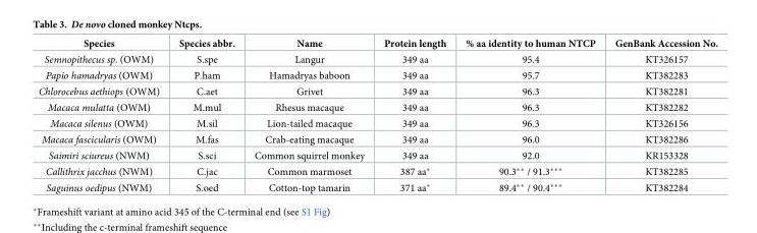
<table><thead><tr><td>Species</td><td>Species abbr.</td><td>Name</td><td>Protein length</td><td>% aa identity to human NTCP</td><td>GenBank Accession No.</td></tr></thead><tbody><tr><td>Semnopithecus sp. (OWM)</td><td>S.spe</td><td>Langur</td><td>349 aa</td><td>95.4</td><td>KT326157</td></tr><tr><td>Papio hamadryas (OWM)</td><td>P.ham</td><td>Hamadryas baboon</td><td>349 aa</td><td>95.7</td><td>KT382283</td></tr><tr><td>Chlorocebus aethiops (OWM)</td><td>C.aet</td><td>Grivet</td><td>349 aa</td><td>96.3</td><td>KT382281</td></tr><tr><td>Macaca mulatta (OWM)</td><td>M.mul</td><td>Rhesus macaque</td><td>349 aa</td><td>96.3</td><td>KT382282</td></tr><tr><td>Macaca silenus (OWM)</td><td>M.sil</td><td>Lion-tailed macaque</td><td>349 aa</td><td>96.3</td><td>KT326156</td></tr><tr><td>Macaca fascicularis (OWM)</td><td>M.fas</td><td>Crab-eating macaque</td><td>349 aa</td><td>96.0</td><td>KT382286</td></tr><tr><td>Saimiri sciureus (NWM)</td><td>S.sci</td><td>Common squirrel monkey</td><td>349 aa</td><td>92.0</td><td>KR153328</td></tr><tr><td>Callithrix jacchus (NWM)</td><td>C.jac</td><td>Common marmoset</td><td>387 aa*</td><td>90.3** / 91.3***</td><td>KT382285</td></tr><tr><td>Saguinus oedipus (NWM)</td><td>S.oed</td><td>Cotton-top tamarin</td><td>371 aa*</td><td>89.4** / 90.4***</td><td>KT382284</td></tr></tbody></table>